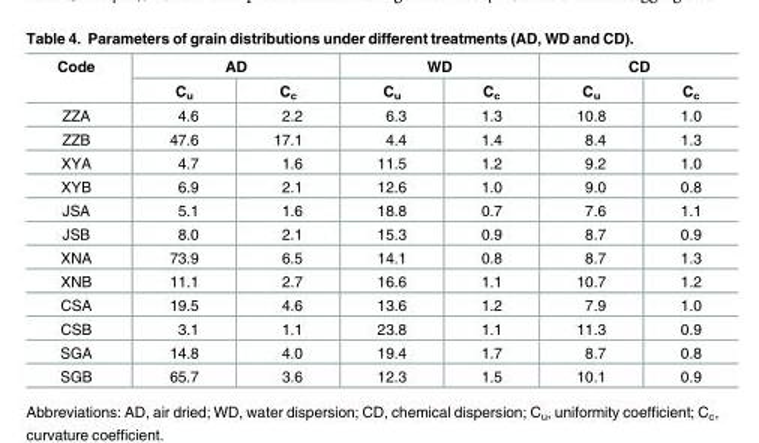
<table><thead><tr><td rowspan="2">Code</td><td colspan="2">AD</td><td colspan="2">WD</td><td colspan="2">CD</td></tr><tr><td>C<sub>u</sub></td><td>C<sub>c</sub></td><td>C<sub>u</sub></td><td>C<sub>c</sub></td><td>C<sub>u</sub></td><td>C<sub>c</sub></td></tr></thead><tbody><tr><td>ZZA</td><td>4.6</td><td>2.2</td><td>6.3</td><td>1.3</td><td>10.8</td><td>1.0</td></tr><tr><td>ZZB</td><td>47.6</td><td>17.1</td><td>4.4</td><td>1.4</td><td>8.4</td><td>1.3</td></tr><tr><td>XYA</td><td>4.7</td><td>1.6</td><td>11.5</td><td>1.2</td><td>9.2</td><td>1.0</td></tr><tr><td>XYB</td><td>6.9</td><td>2.1</td><td>12.6</td><td>1.0</td><td>9.0</td><td>0.8</td></tr><tr><td>JSA</td><td>5.1</td><td>1.6</td><td>18.8</td><td>0.7</td><td>7.6</td><td>1.1</td></tr><tr><td>JSB</td><td>8.0</td><td>2.1</td><td>15.3</td><td>0.9</td><td>8.7</td><td>0.9</td></tr><tr><td>XNA</td><td>73.9</td><td>6.5</td><td>14.1</td><td>0.8</td><td>8.7</td><td>1.3</td></tr><tr><td>XNB</td><td>11.1</td><td>2.7</td><td>16.6</td><td>1.1</td><td>10.7</td><td>1.2</td></tr><tr><td>CSA</td><td>19.5</td><td>4.6</td><td>13.6</td><td>1.2</td><td>7.9</td><td>1.0</td></tr><tr><td>CSB</td><td>3.1</td><td>1.1</td><td>23.8</td><td>1.1</td><td>11.3</td><td>0.9</td></tr><tr><td>SGA</td><td>14.8</td><td>4.0</td><td>19.4</td><td>1.7</td><td>8.7</td><td>0.8</td></tr><tr><td>SGB</td><td>65.7</td><td>3.6</td><td>12.3</td><td>1.5</td><td>10.1</td><td>0.9</td></tr></tbody></table>